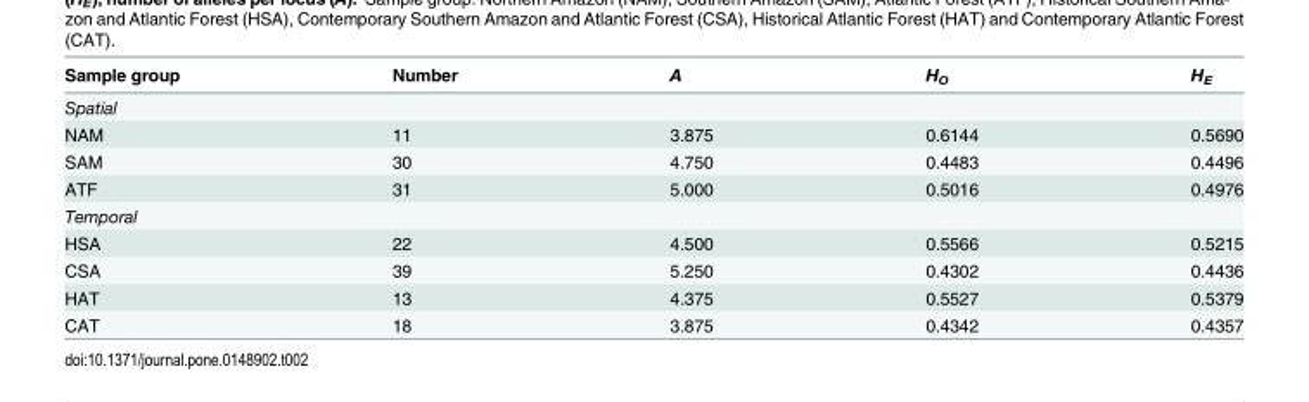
<table><thead><tr><td>Sample group</td><td>Number</td><td>A</td><td>H<sub>O</sub></td><td>H<sub>E</sub></td></tr></thead><tbody><tr><td colspan="5">Spatial</td></tr><tr><td>NAM</td><td>11</td><td>3.875</td><td>0.6144</td><td>0.5690</td></tr><tr><td>SAM</td><td>30</td><td>4.750</td><td>0.4483</td><td>0.4496</td></tr><tr><td>ATF</td><td>31</td><td>5.000</td><td>0.5016</td><td>0.4976</td></tr><tr><td colspan="5">Temporal</td></tr><tr><td>HSA</td><td>22</td><td>4.500</td><td>0.5566</td><td>0.5215</td></tr><tr><td>CSA</td><td>39</td><td>5.250</td><td>0.4302</td><td>0.4436</td></tr><tr><td>HAT</td><td>13</td><td>4.375</td><td>0.5527</td><td>0.5379</td></tr><tr><td>CAT</td><td>18</td><td>3.875</td><td>0.4342</td><td>0.4357</td></tr></tbody></table>